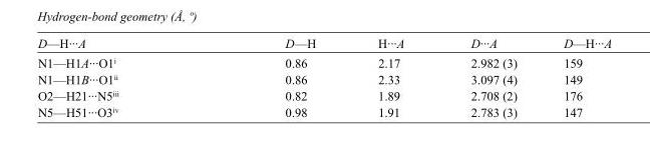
<table><tbody><tr><td>D—H···A</td><td>D—H</td><td>H···A</td><td>D···A</td><td>D—H···A</td></tr><tr><td>N1—H1A···O1<sup>i</sup></td><td>0.86</td><td>2.17</td><td>2.982 (3)</td><td>159</td></tr><tr><td>N1—H1B···O1<sup>ii</sup></td><td>0.86</td><td>2.33</td><td>3.097 (4)</td><td>149</td></tr><tr><td>O2—H21···N5<sup>iii</sup></td><td>0.82</td><td>1.89</td><td>2.708 (2)</td><td>176</td></tr><tr><td>N5—H51···O3<sup>iv</sup></td><td>0.98</td><td>1.91</td><td>2.783 (3)</td><td>147</td></tr></tbody></table>